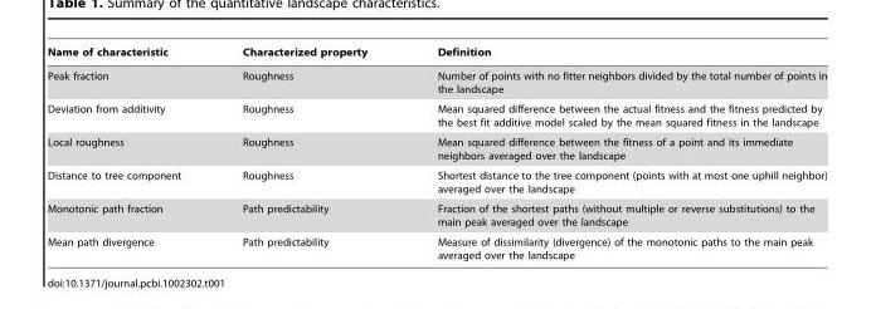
<table><thead><tr><td>Name of characteristic</td><td>Characterized property</td><td>Definition</td></tr></thead><tbody><tr><td>Peak fraction</td><td>Roughness</td><td>Number of points with no fitter neighbors divided by the total number of points in the landscape</td></tr><tr><td>Deviation from additivity</td><td>Roughness</td><td>Mean squared difference between the actual fitness and the fitness predicted by the best fit additive model scaled by the mean squared fitness in the landscape</td></tr><tr><td>Local roughness</td><td>Roughness</td><td>Mean squared difference between the fitness of a point and its immediate neighbors averaged over the landscape</td></tr><tr><td>Distance to tree component</td><td>Roughness</td><td>Shortest distance to the tree component (points with at most one uphill neighbor) averaged over the landscape</td></tr><tr><td>Monotonic path fraction</td><td>Path predictability</td><td>Fraction of the shortest paths (without multiple or reverse substitutions) to the main peak averaged over the landscape</td></tr><tr><td>Mean path divergence</td><td>Path predictability</td><td>Measure of dissimilarity (divergence) of the monotonic paths to the main peak averaged over the landscape</td></tr></tbody></table>